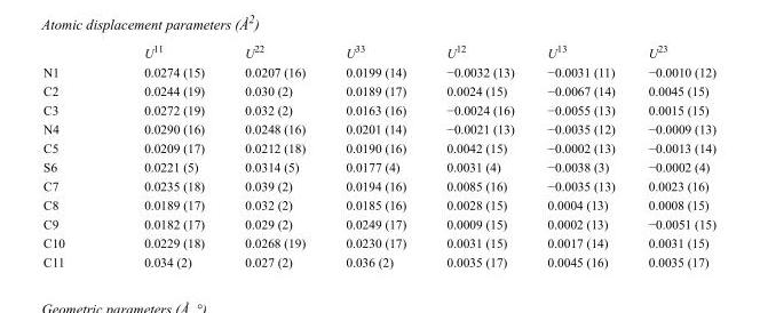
<table><thead><tr><td></td><td>U<sup>11</sup></td><td>U<sup>22</sup></td><td>U<sup>33</sup></td><td>U<sup>12</sup></td><td>U<sup>13</sup></td><td>U<sup>23</sup></td></tr></thead><tbody><tr><td>N1</td><td>0.0274 (15)</td><td>0.0207 (16)</td><td>0.0199 (14)</td><td>−0.0032 (13)</td><td>−0.0031 (11)</td><td>−0.0010 (12)</td></tr><tr><td>C2</td><td>0.0244 (19)</td><td>0.030 (2)</td><td>0.0189 (17)</td><td>0.0024 (15)</td><td>−0.0067 (14)</td><td>0.0045 (15)</td></tr><tr><td>C3</td><td>0.0272 (19)</td><td>0.032 (2)</td><td>0.0163 (16)</td><td>−0.0024 (16)</td><td>−0.0055 (13)</td><td>0.0015 (15)</td></tr><tr><td>N4</td><td>0.0290 (16)</td><td>0.0248 (16)</td><td>0.0201 (14)</td><td>−0.0021 (13)</td><td>−0.0035 (12)</td><td>−0.0009 (13)</td></tr><tr><td>C5</td><td>0.0209 (17)</td><td>0.0212 (18)</td><td>0.0190 (16)</td><td>0.0042 (15)</td><td>−0.0002 (13)</td><td>−0.0013 (14)</td></tr><tr><td>S6</td><td>0.0221 (5)</td><td>0.0314 (5)</td><td>0.0177 (4)</td><td>0.0031 (4)</td><td>−0.0038 (3)</td><td>−0.0002 (4)</td></tr><tr><td>C7</td><td>0.0235 (18)</td><td>0.039 (2)</td><td>0.0194 (16)</td><td>0.0085 (16)</td><td>−0.0035 (13)</td><td>0.0023 (16)</td></tr><tr><td>C8</td><td>0.0189 (17)</td><td>0.032 (2)</td><td>0.0185 (16)</td><td>0.0028 (15)</td><td>0.0004 (13)</td><td>0.0008 (15)</td></tr><tr><td>C9</td><td>0.0182 (17)</td><td>0.029 (2)</td><td>0.0249 (17)</td><td>0.0009 (15)</td><td>0.0002 (13)</td><td>−0.0051 (15)</td></tr><tr><td>C10</td><td>0.0229 (18)</td><td>0.0268 (19)</td><td>0.0230 (17)</td><td>0.0031 (15)</td><td>0.0017 (14)</td><td>0.0031 (15)</td></tr><tr><td>C11</td><td>0.034 (2)</td><td>0.027 (2)</td><td>0.036 (2)</td><td>0.0035 (17)</td><td>0.0045 (16)</td><td>0.0035 (17)</td></tr></tbody></table>